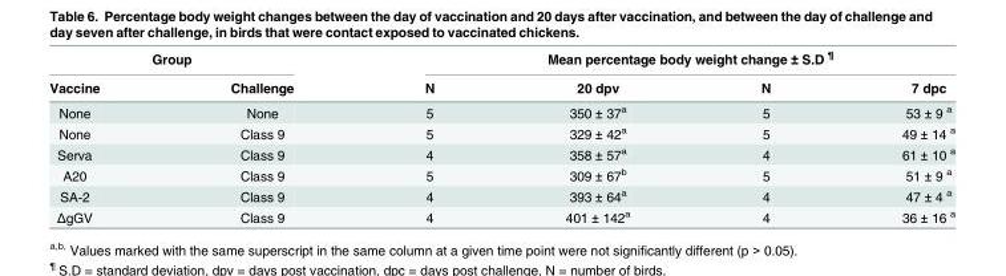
<table><thead><tr><td colspan="2">Group</td><td colspan="4">Mean percentage body weight change ± S.D <sup>¶</sup></td></tr><tr><td>Vaccine</td><td>Challenge</td><td>N</td><td>20 dpv</td><td>N</td><td>7 dpc</td></tr></thead><tbody><tr><td>None</td><td>None</td><td>5</td><td>350 ± 37<sup>a</sup></td><td>5</td><td>53 ± 9 <sup>a</sup></td></tr><tr><td>None</td><td>Class 9</td><td>5</td><td>329 ± 42<sup>a</sup></td><td>5</td><td>49 ± 14 <sup>a</sup></td></tr><tr><td>Serva</td><td>Class 9</td><td>4</td><td>358 ± 57<sup>a</sup></td><td>4</td><td>61 ± 10 <sup>a</sup></td></tr><tr><td>A20</td><td>Class 9</td><td>5</td><td>309 ± 67<sup>b</sup></td><td>5</td><td>51 ± 9 <sup>a</sup></td></tr><tr><td>SA-2</td><td>Class 9</td><td>4</td><td>393 ± 64<sup>a</sup></td><td>4</td><td>47 ± 4 <sup>a</sup></td></tr><tr><td>ΔgGV</td><td>Class 9</td><td>4</td><td>401 ± 142<sup>a</sup></td><td>4</td><td>36 ± 16 <sup>a</sup></td></tr></tbody></table>